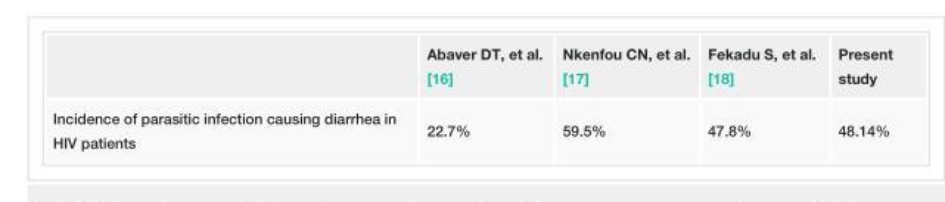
<table><thead><tr><td></td><td>Abaver DT, et al. [16]</td><td>Nkenfou CN, et al. [17]</td><td>Fekadu S, et al. [18]</td><td>Present study</td></tr></thead><tbody><tr><td>Incidence of parasitic infection causing diarrhea in HIV patients</td><td>22.7%</td><td>59.5%</td><td>47.8%</td><td>48.14%</td></tr></tbody></table>